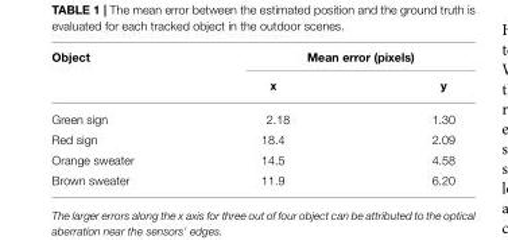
<table><thead><tr><td rowspan="2">Object</td><td colspan="2">Mean error (pixels)</td></tr><tr><td>x</td><td>y</td></tr></thead><tbody><tr><td>Green sign</td><td>2.18</td><td>1.30</td></tr><tr><td>Red sign</td><td>18.4</td><td>2.09</td></tr><tr><td>Orange sweater</td><td>14.5</td><td>4.58</td></tr><tr><td>Brown sweater</td><td>11.9</td><td>6.20</td></tr></tbody></table>